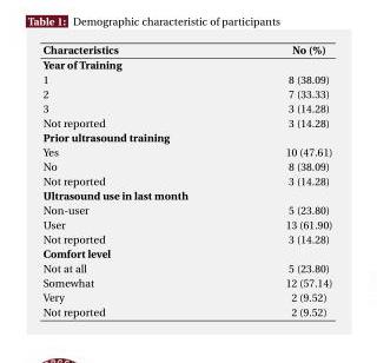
<table><thead><tr><td>Characteristics</td><td>No (%)</td></tr></thead><tbody><tr><td colspan="2">Year of Training</td></tr><tr><td>1</td><td>8 (38.09)</td></tr><tr><td>2</td><td>7 (33.33)</td></tr><tr><td>3</td><td>3 (14.28)</td></tr><tr><td>Not reported</td><td>3 (14.28)</td></tr><tr><td colspan="2">Prior ultrasound training</td></tr><tr><td>Yes</td><td>10 (47.61)</td></tr><tr><td>No</td><td>8 (38.09)</td></tr><tr><td>Not reported</td><td>3 (14.28)</td></tr><tr><td colspan="2">Ultrasound use in last month</td></tr><tr><td>Non-user</td><td>5 (23.80)</td></tr><tr><td>User</td><td>13 (61.90)</td></tr><tr><td>Not reported</td><td>3 (14.28)</td></tr><tr><td colspan="2">Comfort level</td></tr><tr><td>Not at all</td><td>5 (23.80)</td></tr><tr><td>Somewhat</td><td>12 (57.14)</td></tr><tr><td>Very</td><td>2 (9.52)</td></tr><tr><td>Not reported</td><td>2 (9.52)</td></tr></tbody></table>